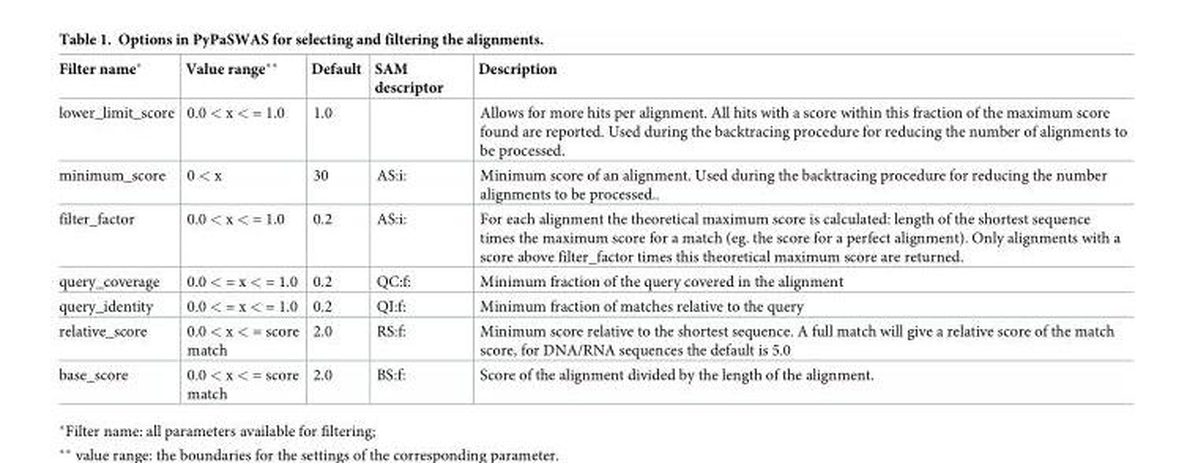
<table><thead><tr><td>Filter name*</td><td>Value range**</td><td>Default</td><td>SAM descriptor</td><td>Description</td></tr></thead><tbody><tr><td>lower_limit_score</td><td>0.0 &lt; x &lt; = 1.0</td><td>1.0</td><td></td><td>Allows for more hits per alignment. All hits with a score within this fraction of the maximum score found are reported. Used during the backtracing procedure for reducing the number of alignments to be processed.</td></tr><tr><td>minimum_score</td><td>0 &lt; x</td><td>30</td><td>AS:i:</td><td>Minimum score of an alignment. Used during the backtracing procedure for reducing the number alignments to be processed..</td></tr><tr><td>filter_factor</td><td>0.0 &lt; x &lt; = 1.0</td><td>0.2</td><td>AS:i:</td><td>For each alignment the theoretical maximum score is calculated: length of the shortest sequence times the maximum score for a match (eg. the score for a perfect alignment). Only alignments with a score above filter_factor times this theoretical maximum score are returned.</td></tr><tr><td>query_coverage</td><td>0.0 &lt; = x &lt; = 1.0</td><td>0.2</td><td>QC:f:</td><td>Minimum fraction of the query covered in the alignment</td></tr><tr><td>query_identity</td><td>0.0 &lt; = x &lt; = 1.0</td><td>0.2</td><td>QI:f:</td><td>Minimum fraction of matches relative to the query</td></tr><tr><td>relative_score</td><td>0.0 &lt; x &lt; = score match</td><td>2.0</td><td>RS:f:</td><td>Minimum score relative to the shortest sequence. A full match will give a relative score of the match score, for DNA/RNA sequences the default is 5.0</td></tr><tr><td>base_score</td><td>0.0 &lt; x &lt; = score match</td><td>2.0</td><td>BS:f:</td><td>Score of the alignment divided by the length of the alignment.</td></tr></tbody></table>